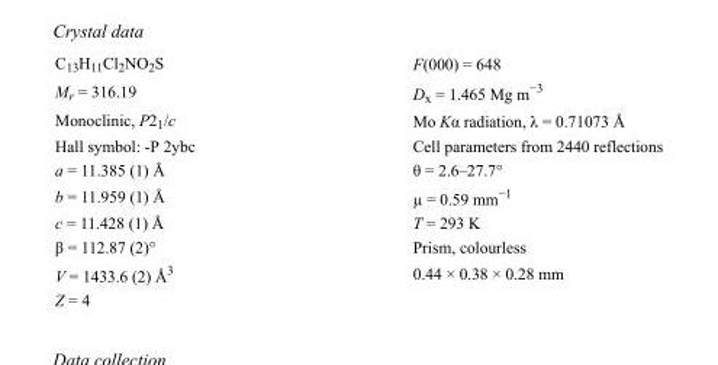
<table><tbody><tr><td>C<sub>13</sub>H<sub>11</sub>Cl<sub>2</sub>NO<sub>2</sub>S</td><td>F(000) = 648</td></tr><tr><td>M<sub>r</sub> = 316.19</td><td>D<sub>x</sub> = 1.465 Mg m<sup>−3</sup></td></tr><tr><td>Monoclinic, P2<sub>1</sub>/c</td><td>Mo Kα radiation, λ = 0.71073 Å</td></tr><tr><td>Hall symbol: -P 2ybc</td><td>Cell parameters from 2440 reflections</td></tr><tr><td>a = 11.385 (1) Å</td><td>θ = 2.6–27.7°</td></tr><tr><td>b = 11.959 (1) Å</td><td>µ = 0.59 mm<sup>−1</sup></td></tr><tr><td>c = 11.428 (1) Å</td><td>T = 293 K</td></tr><tr><td>β = 112.87 (2)°</td><td>Prism, colourless</td></tr><tr><td>V = 1433.6 (2) Å<sup>3</sup></td><td>0.44 × 0.38 × 0.28 mm</td></tr><tr><td>Z = 4</td><td></td></tr></tbody></table>